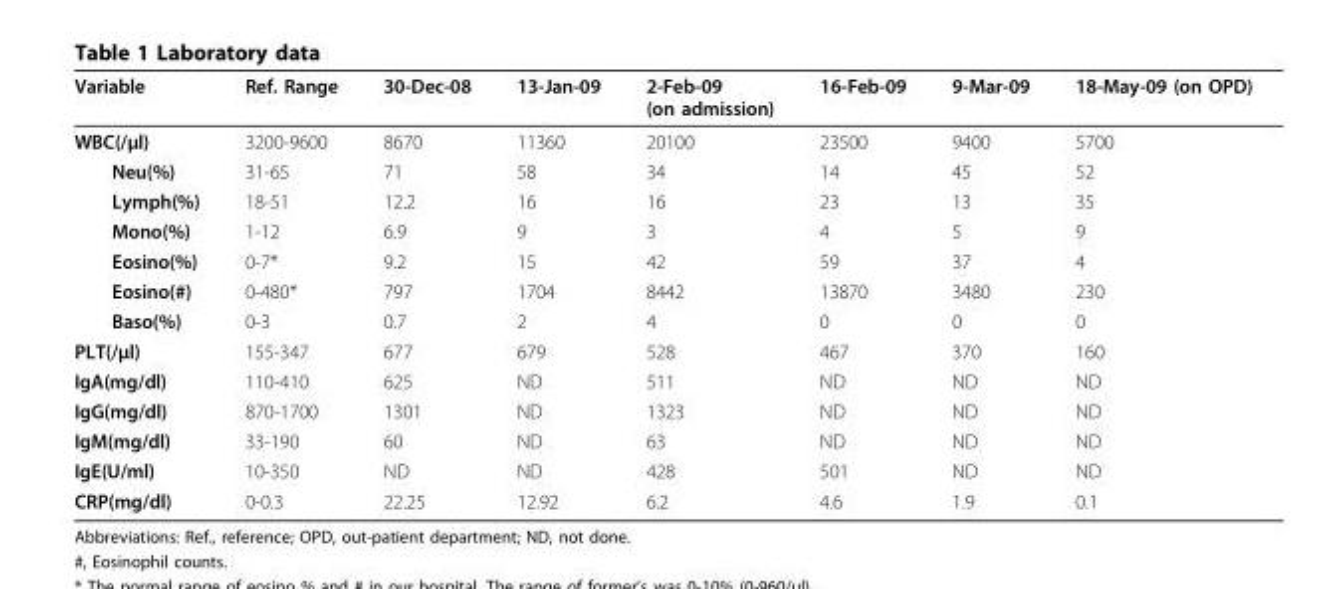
<table><thead><tr><td>Variable</td><td>Ref. Range</td><td>30-Dec-08</td><td>13-Jan-09</td><td>2-Feb-09 (on admission)</td><td>16-Feb-09</td><td>9-Mar-09</td><td>18-May-09 (on OPD)</td></tr></thead><tbody><tr><td>WBC(/μl)</td><td>3200-9600</td><td>8670</td><td>11360</td><td>20100</td><td>23500</td><td>9400</td><td>5700</td></tr><tr><td>Neu(%)</td><td>31-65</td><td>71</td><td>58</td><td>34</td><td>14</td><td>45</td><td>52</td></tr><tr><td>Lymph(%)</td><td>18-51</td><td>12.2</td><td>16</td><td>16</td><td>23</td><td>13</td><td>35</td></tr><tr><td>Mono(%)</td><td>1-12</td><td>6.9</td><td>9</td><td>3</td><td>4</td><td>5</td><td>9</td></tr><tr><td>Eosino(%)</td><td>0-7*</td><td>9.2</td><td>15</td><td>42</td><td>59</td><td>37</td><td>4</td></tr><tr><td>Eosino(#)</td><td>0-480*</td><td>797</td><td>1704</td><td>8442</td><td>13870</td><td>3480</td><td>230</td></tr><tr><td>Baso(%)</td><td>0-3</td><td>0.7</td><td>2</td><td>4</td><td>0</td><td>0</td><td>0</td></tr><tr><td>PLT(/μl)</td><td>155-347</td><td>677</td><td>679</td><td>528</td><td>467</td><td>370</td><td>160</td></tr><tr><td>IgA(mg/dl)</td><td>110-410</td><td>625</td><td>ND</td><td>511</td><td>ND</td><td>ND</td><td>ND</td></tr><tr><td>IgG(mg/dl)</td><td>870-1700</td><td>1301</td><td>ND</td><td>1323</td><td>ND</td><td>ND</td><td>ND</td></tr><tr><td>IgM(mg/dl)</td><td>33-190</td><td>60</td><td>ND</td><td>63</td><td>ND</td><td>ND</td><td>ND</td></tr><tr><td>IgE(U/ml)</td><td>10-350</td><td>ND</td><td>ND</td><td>428</td><td>501</td><td>ND</td><td>ND</td></tr><tr><td>CRP(mg/dl)</td><td>0-0.3</td><td>22.25</td><td>12.92</td><td>6.2</td><td>4.6</td><td>1.9</td><td>0.1</td></tr></tbody></table>